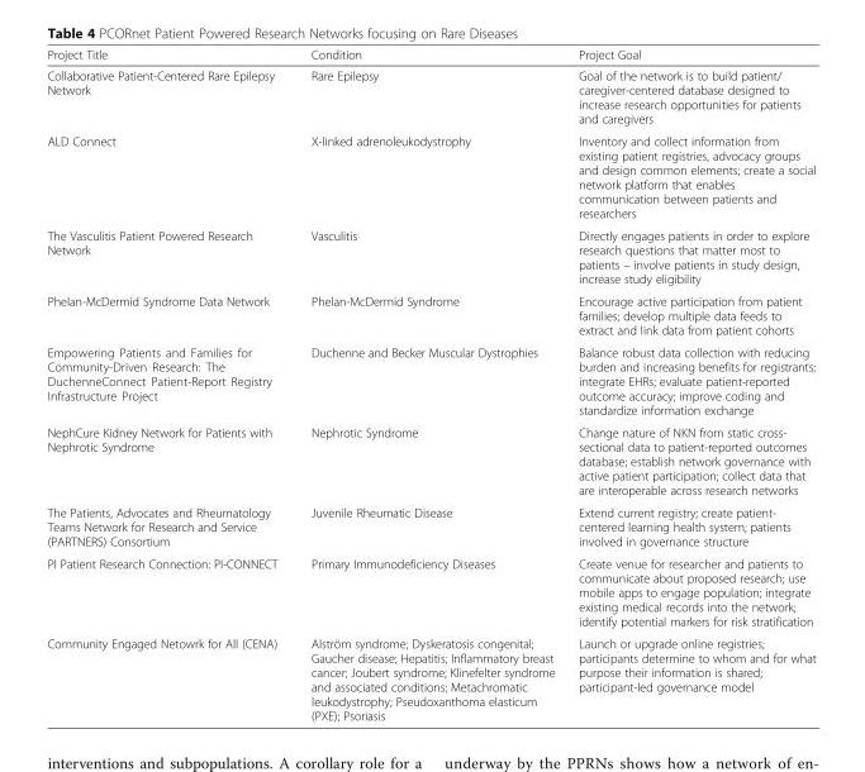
<table><thead><tr><td>Project Title</td><td>Condition</td><td>Project Goal</td></tr></thead><tbody><tr><td>Collaborative Patient-Centered Rare Epilepsy Network</td><td>Rare Epilepsy</td><td>Goal of the network is to build patient/ caregiver-centered database designed to increase research opportunities for patients and caregivers</td></tr><tr><td>ALD Connect</td><td>X-linked adrenoleukodystrophy</td><td>Inventory and collect information from existing patient registries, advocacy groups and design common elements; create a social network platform that enables communication between patients and researchers</td></tr><tr><td>The Vasculitis Patient Powered Research Network</td><td>Vasculitis</td><td>Directly engages patients in order to explore research questions that matter most to patients – involve patients in study design, increase study eligibility</td></tr><tr><td>Phelan-McDermid Syndrome Data Network</td><td>Phelan-McDermid Syndrome</td><td>Encourage active participation from patient families; develop multiple data feeds to extract and link data from patient cohorts</td></tr><tr><td>Empowering Patients and Families for Community-Driven Research: The DuchenneConnect Patient-Report Registry Infrastructure Project</td><td>Duchenne and Becker Muscular Dystrophies</td><td>Balance robust data collection with reducing burden and increasing benefits for registrants; integrate EHRs; evaluate patient-reported outcome accuracy; improve coding and standardize information exchange</td></tr><tr><td>NephCure Kidney Network for Patients with Nephrotic Syndrome</td><td>Nephrotic Syndrome</td><td>Change nature of NKN from static cross- sectional data to patient-reported outcomes database; establish network governance with active patient participation; collect data that are interoperable across research networks</td></tr><tr><td>The Patients, Advocates and Rheumatology Teams Network for Research and Service (PARTNERS) Consortium</td><td>Juvenile Rheumatic Disease</td><td>Extend current registry; create patient- centered learning health system; patients involved in governance structure</td></tr><tr><td>PI Patient Research Connection: PI-CONNECT</td><td>Primary Immunodeficiency Diseases</td><td>Create venue for researcher and patients to communicate about proposed research; use mobile apps to engage population; integrate existing medical records into the network; identify potential markers for risk stratification</td></tr><tr><td>Community Engaged Netowrk for All (CENA)</td><td>Alström syndrome; Dyskeratosis congenital; Gaucher disease; Hepatitis; Inflammatory breast cancer; Joubert syndrome; Klinefelter syndrome and associated conditions; Metachromatic leukodystrophy; Pseudoxanthoma elasticum (PXE); Psoriasis</td><td>Launch or upgrade online registries; participants determine to whom and for what purpose their information is shared; participant-led governance model</td></tr></tbody></table>